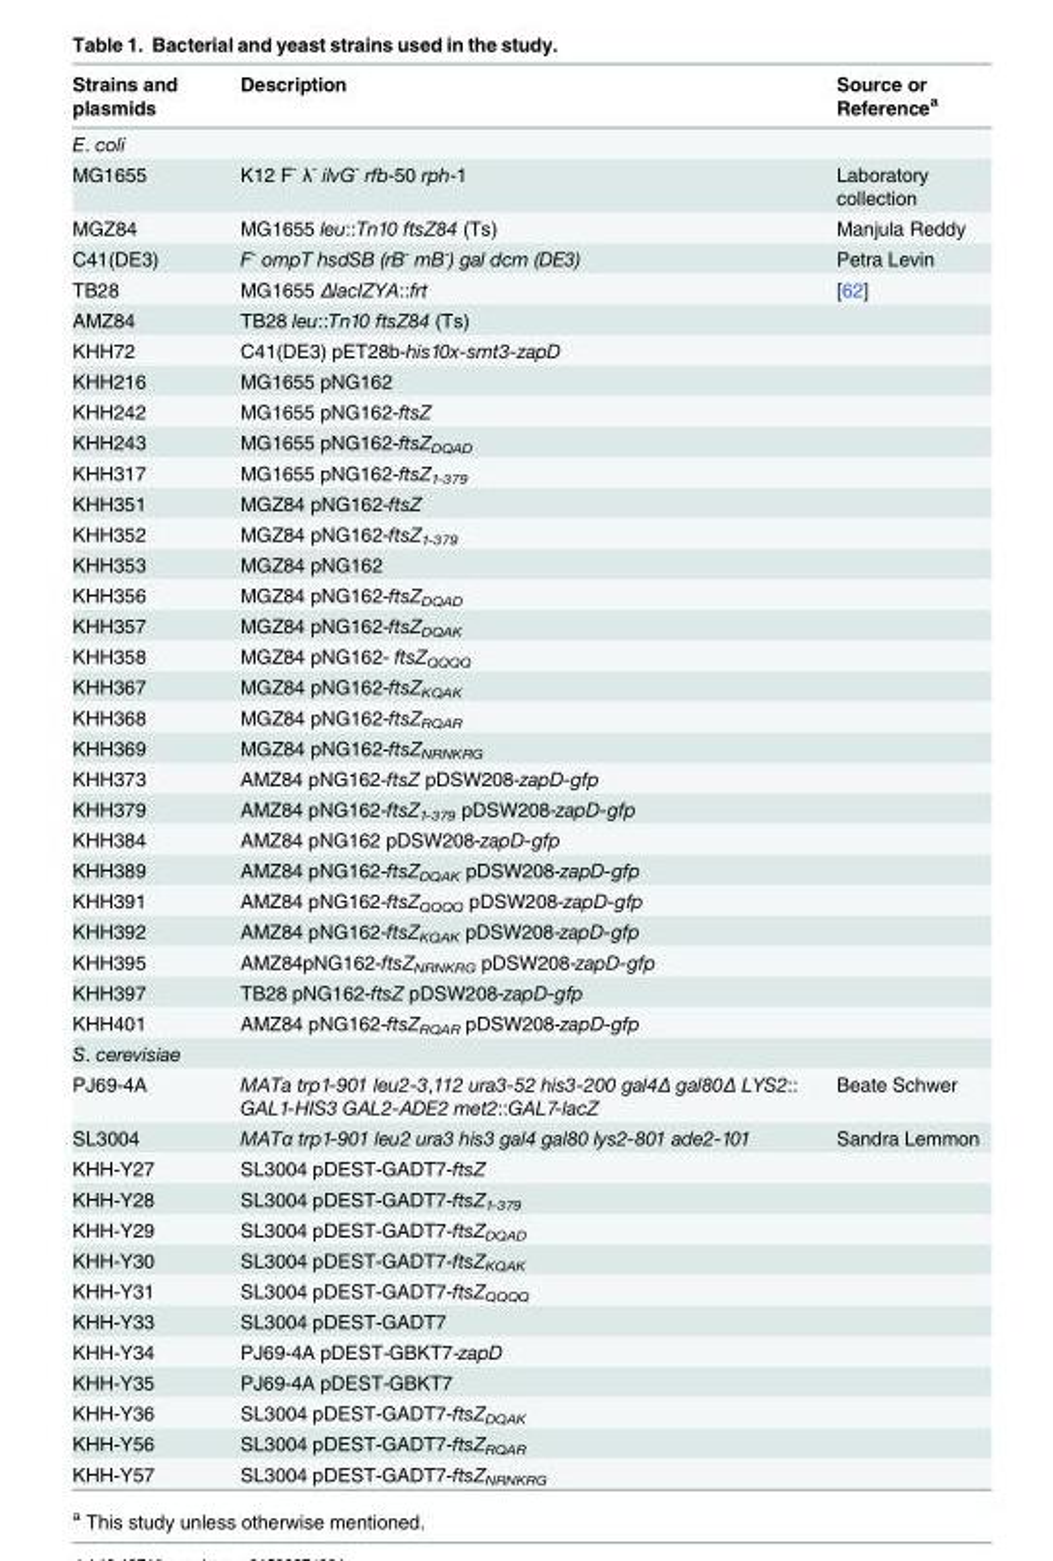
<table><thead><tr><td>Strains and plasmids</td><td>Description</td><td>Source or Reference<sup>a</sup></td></tr></thead><tbody><tr><td colspan="3">E. coli</td></tr><tr><td>MG1655</td><td>K12 F<sup>-</sup> λ<sup>-</sup> ilvG<sup>-</sup> rfb-50 rph-1</td><td>Laboratory collection</td></tr><tr><td>MGZ84</td><td>MG1655 leu::Tn10 ftsZ84 (Ts)</td><td>Manjula Reddy</td></tr><tr><td>C41(DE3)</td><td>F<sup>-</sup> ompT hsdSB (rB<sup>-</sup> mB<sup>-</sup>) gal dcm (DE3)</td><td>Petra Levin</td></tr><tr><td>TB28</td><td>MG1655 ΔlacIZYA::frt</td><td>[62]</td></tr><tr><td>AMZ84</td><td>TB28 leu::Tn10 ftsZ84 (Ts)</td><td></td></tr><tr><td>KHH72</td><td>C41(DE3) pET28b-his10x-smt3-zapD</td><td></td></tr><tr><td>KHH216</td><td>MG1655 pNG162</td><td></td></tr><tr><td>KHH242</td><td>MG1655 pNG162-ftsZ</td><td></td></tr><tr><td>KHH243</td><td>MG1655 pNG162-ftsZ<sub>DQAD</sub></td><td></td></tr><tr><td>KHH317</td><td>MG1655 pNG162-ftsZ<sub>1-379</sub></td><td></td></tr><tr><td>KHH351</td><td>MGZ84 pNG162-ftsZ</td><td></td></tr><tr><td>KHH352</td><td>MGZ84 pNG162-ftsZ<sub>1-379</sub></td><td></td></tr><tr><td>KHH353</td><td>MGZ84 pNG162</td><td></td></tr><tr><td>KHH356</td><td>MGZ84 pNG162-ftsZ<sub>DQAD</sub></td><td></td></tr><tr><td>KHH357</td><td>MGZ84 pNG162-ftsZ<sub>DQAK</sub></td><td></td></tr><tr><td>KHH358</td><td>MGZ84 pNG162- ftsZ<sub>QQQQ</sub></td><td></td></tr><tr><td>KHH367</td><td>MGZ84 pNG162-ftsZ<sub>KQAK</sub></td><td></td></tr><tr><td>KHH368</td><td>MGZ84 pNG162-ftsZ<sub>RQAR</sub></td><td></td></tr><tr><td>KHH369</td><td>MGZ84 pNG162-ftsZ<sub>NRNKRG</sub></td><td></td></tr><tr><td>KHH373</td><td>AMZ84 pNG162-ftsZ pDSW208-zapD-gfp</td><td></td></tr><tr><td>KHH379</td><td>AMZ84 pNG162-ftsZ<sub>1-379</sub> pDSW208-zapD-gfp</td><td></td></tr><tr><td>KHH384</td><td>AMZ84 pNG162 pDSW208-zapD-gfp</td><td></td></tr><tr><td>KHH389</td><td>AMZ84 pNG162-ftsZ<sub>DQAK</sub> pDSW208-zapD-gfp</td><td></td></tr><tr><td>KHH391</td><td>AMZ84 pNG162-ftsZ<sub>QQQQ</sub> pDSW208-zapD-gfp</td><td></td></tr><tr><td>KHH392</td><td>AMZ84 pNG162-ftsZ<sub>KQAK</sub> pDSW208-zapD-gfp</td><td></td></tr><tr><td>KHH395</td><td>AMZ84pNG162-ftsZ<sub>NRNKRG</sub> pDSW208-zapD-gfp</td><td></td></tr><tr><td>KHH397</td><td>TB28 pNG162-ftsZ pDSW208-zapD-gfp</td><td></td></tr><tr><td>KHH401</td><td>AMZ84 pNG162-ftsZ<sub>RQAR</sub> pDSW208-zapD-gfp</td><td></td></tr><tr><td colspan="3">S. cerevisiae</td></tr><tr><td>PJ69-4A</td><td>MATa trp1-901 leu2-3,112 ura3-52 his3-200 gal4Δ gal80Δ LYS2:: GAL1-HIS3 GAL2-ADE2 met2::GAL7-lacZ</td><td>Beate Schwer</td></tr><tr><td>SL3004</td><td>MATα trp1-901 leu2 ura3 his3 gal4 gal80 lys2-801 ade2-101</td><td>Sandra Lemmon</td></tr><tr><td>KHH-Y27</td><td>SL3004 pDEST-GADT7-ftsZ</td><td></td></tr><tr><td>KHH-Y28</td><td>SL3004 pDEST-GADT7-ftsZ<sub>1-379</sub></td><td></td></tr><tr><td>KHH-Y29</td><td>SL3004 pDEST-GADT7-ftsZ<sub>DQAD</sub></td><td></td></tr><tr><td>KHH-Y30</td><td>SL3004 pDEST-GADT7-ftsZ<sub>KQAK</sub></td><td></td></tr><tr><td>KHH-Y31</td><td>SL3004 pDEST-GADT7-ftsZ<sub>QQQQ</sub></td><td></td></tr><tr><td>KHH-Y33</td><td>SL3004 pDEST-GADT7</td><td></td></tr><tr><td>KHH-Y34</td><td>PJ69-4A pDEST-GBKT7-zapD</td><td></td></tr><tr><td>KHH-Y35</td><td>PJ69-4A pDEST-GBKT7</td><td></td></tr><tr><td>KHH-Y36</td><td>SL3004 pDEST-GADT7-ftsZ<sub>DQAK</sub></td><td></td></tr><tr><td>KHH-Y56</td><td>SL3004 pDEST-GADT7-ftsZ<sub>RQAR</sub></td><td></td></tr><tr><td>KHH-Y57</td><td>SL3004 pDEST-GADT7-ftsZ<sub>NRNKRG</sub></td><td></td></tr></tbody></table>